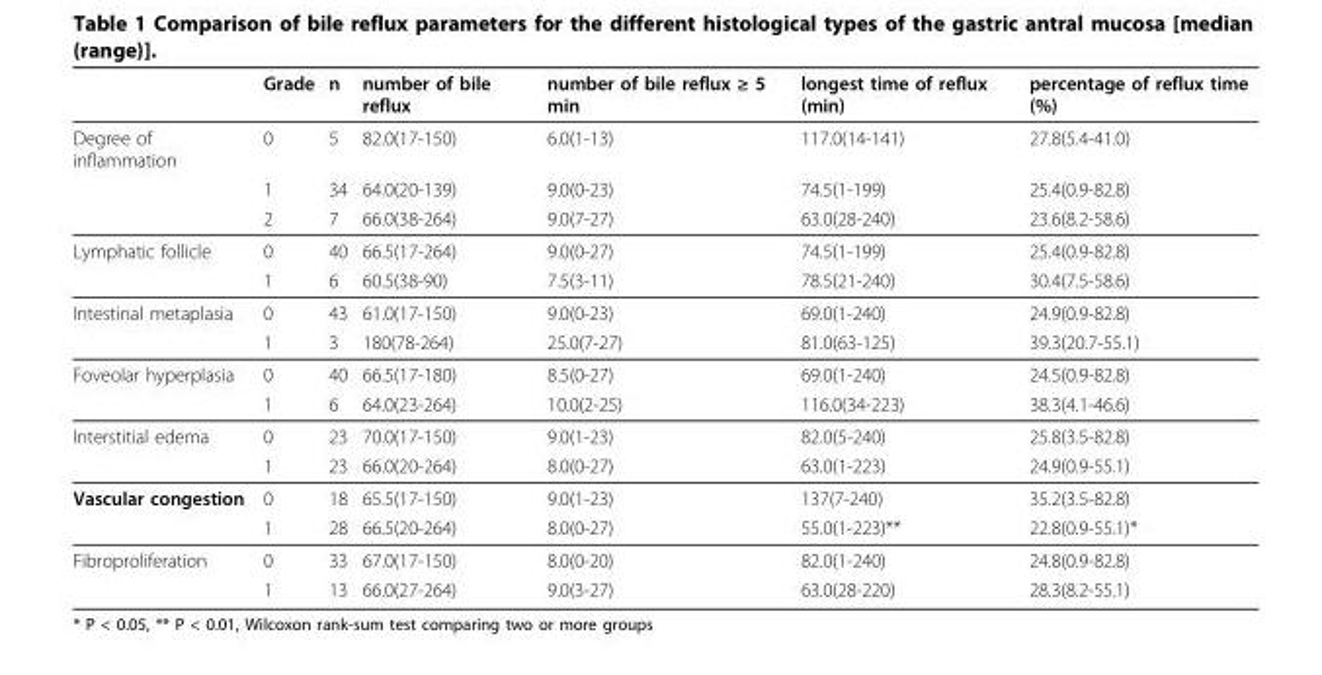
<table><thead><tr><td></td><td>Grade</td><td>n</td><td>number of bile reflux</td><td>number of bile reflux ≥ 5 min</td><td>longest time of reflux (min)</td><td>percentage of reflux time (%)</td></tr></thead><tbody><tr><td rowspan="3">Degree of inflammation</td><td>0</td><td>5</td><td>82.0(17-150)</td><td>6.0(1-13)</td><td>117.0(14-141)</td><td>27.8(5.4-41.0)</td></tr><tr><td>1</td><td>34</td><td>64.0(20-139)</td><td>9.0(0-23)</td><td>74.5(1-199)</td><td>25.4(0.9-82.8)</td></tr><tr><td>2</td><td>7</td><td>66.0(38-264)</td><td>9.0(7-27)</td><td>63.0(28-240)</td><td>23.6(8.2-58.6)</td></tr><tr><td rowspan="2">Lymphatic follicle</td><td>0</td><td>40</td><td>66.5(17-264)</td><td>9.0(0-27)</td><td>74.5(1-199)</td><td>25.4(0.9-82.8)</td></tr><tr><td>1</td><td>6</td><td>60.5(38-90)</td><td>7.5(3-11)</td><td>78.5(21-240)</td><td>30.4(7.5-58.6)</td></tr><tr><td rowspan="2">Intestinal metaplasia</td><td>0</td><td>43</td><td>61.0(17-150)</td><td>9.0(0-23)</td><td>69.0(1-240)</td><td>24.9(0.9-82.8)</td></tr><tr><td>1</td><td>3</td><td>180(78-264)</td><td>25.0(7-27)</td><td>81.0(63-125)</td><td>39.3(20.7-55.1)</td></tr><tr><td rowspan="2">Foveolar hyperplasia</td><td>0</td><td>40</td><td>66.5(17-180)</td><td>8.5(0-27)</td><td>69.0(1-240)</td><td>24.5(0.9-82.8)</td></tr><tr><td>1</td><td>6</td><td>64.0(23-264)</td><td>10.0(2-25)</td><td>116.0(34-223)</td><td>38.3(4.1-46.6)</td></tr><tr><td rowspan="2">Interstitial edema</td><td>0</td><td>23</td><td>70.0(17-150)</td><td>9.0(1-23)</td><td>82.0(5-240)</td><td>25.8(3.5-82.8)</td></tr><tr><td>1</td><td>23</td><td>66.0(20-264)</td><td>8.0(0-27)</td><td>63.0(1-223)</td><td>24.9(0.9-55.1)</td></tr><tr><td rowspan="2">Vascular congestion</td><td>0</td><td>18</td><td>65.5(17-150)</td><td>9.0(1-23)</td><td>137(7-240)</td><td>35.2(3.5-82.8)</td></tr><tr><td>1</td><td>28</td><td>66.5(20-264)</td><td>8.0(0-27)</td><td>55.0(1-223)**</td><td>22.8(0.9-55.1)*</td></tr><tr><td rowspan="2">Fibroproliferation</td><td>0</td><td>33</td><td>67.0(17-150)</td><td>8.0(0-20)</td><td>82.0(1-240)</td><td>24.8(0.9-82.8)</td></tr><tr><td>1</td><td>13</td><td>66.0(27-264)</td><td>9.0(3-27)</td><td>63.0(28-220)</td><td>28.3(8.2-55.1)</td></tr></tbody></table>